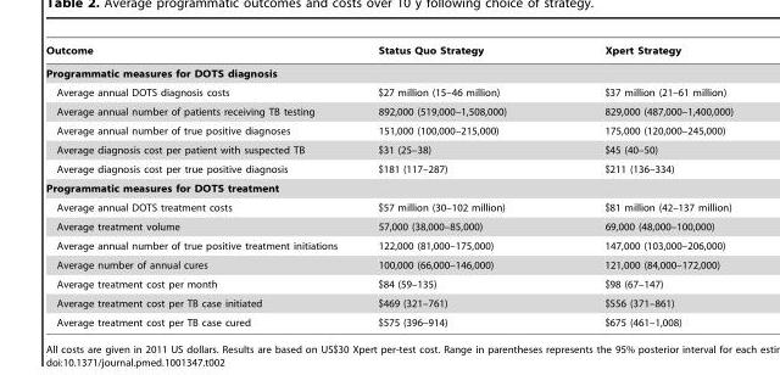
<table><thead><tr><td>Outcome</td><td>Status Quo Strategy</td><td>Xpert Strategy</td></tr></thead><tbody><tr><td colspan="3">Programmatic measures for DOTS diagnosis</td></tr><tr><td>Average annual DOTS diagnosis costs</td><td>$27 million (15–46 million)</td><td>$37 million (21–61 million)</td></tr><tr><td>Average annual number of patients receiving TB testing</td><td>892,000 (519,000–1,508,000)</td><td>829,000 (487,000–1,400,000)</td></tr><tr><td>Average annual number of true positive diagnoses</td><td>151,000 (100,000–215,000)</td><td>175,000 (120,000–245,000)</td></tr><tr><td>Average diagnosis cost per patient with suspected TB</td><td>$31 (25–38)</td><td>$45 (40–50)</td></tr><tr><td>Average diagnosis cost per true positive diagnosis</td><td>$181 (117–287)</td><td>$211 (136–334)</td></tr><tr><td colspan="3">Programmatic measures for DOTS treatment</td></tr><tr><td>Average annual DOTS treatment costs</td><td>$57 million (30–102 million)</td><td>$81 million (42–137 million)</td></tr><tr><td>Average treatment volume</td><td>57,000 (38,000–85,000)</td><td>69,000 (48,000–100,000)</td></tr><tr><td>Average annual number of true positive treatment initiations</td><td>122,000 (81,000–175,000)</td><td>147,000 (103,000–206,000)</td></tr><tr><td>Average number of annual cures</td><td>100,000 (66,000–146,000)</td><td>121,000 (84,000–172,000)</td></tr><tr><td>Average treatment cost per month</td><td>$84 (59–135)</td><td>$98 (67–147)</td></tr><tr><td>Average treatment cost per TB case initiated</td><td>$469 (321–761)</td><td>$556 (371–861)</td></tr><tr><td>Average treatment cost per TB case cured</td><td>$575 (396–914)</td><td>$675 (461–1,008)</td></tr></tbody></table>